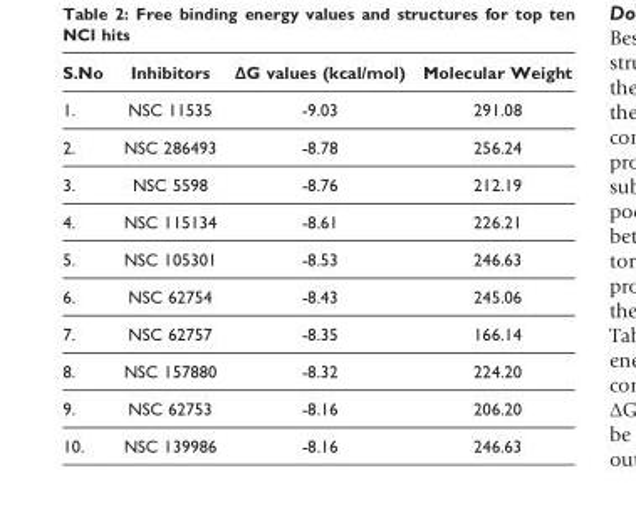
<table><thead><tr><td>S.No</td><td>Inhibitors</td><td>ΔG values (kcal/mol)</td><td>Molecular Weight</td></tr></thead><tbody><tr><td>1.</td><td>NSC 11535</td><td>-9.03</td><td>291.08</td></tr><tr><td>2.</td><td>NSC 286493</td><td>-8.78</td><td>256.24</td></tr><tr><td>3.</td><td>NSC 5598</td><td>-8.76</td><td>212.19</td></tr><tr><td>4.</td><td>NSC 115134</td><td>-8.61</td><td>226.21</td></tr><tr><td>5.</td><td>NSC 105301</td><td>-8.53</td><td>246.63</td></tr><tr><td>6.</td><td>NSC 62754</td><td>-8.43</td><td>245.06</td></tr><tr><td>7.</td><td>NSC 62757</td><td>-8.35</td><td>166.14</td></tr><tr><td>8.</td><td>NSC 157880</td><td>-8.32</td><td>224.20</td></tr><tr><td>9.</td><td>NSC 62753</td><td>-8.16</td><td>206.20</td></tr><tr><td>10.</td><td>NSC 139986</td><td>-8.16</td><td>246.63</td></tr></tbody></table>